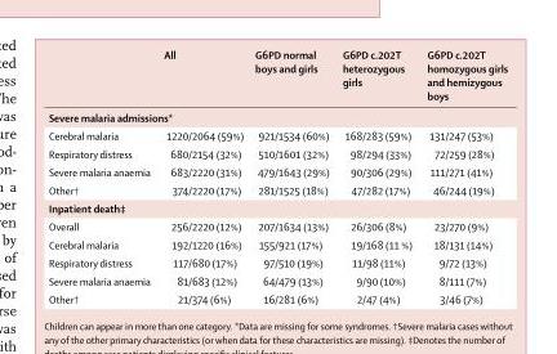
<table><thead><tr><td></td><td>All</td><td>G6PD normal boys and girls</td><td>G6PD c.202T heterozygous girls</td><td>G6PD c.202T homozygous girls and hemizygous boys</td></tr></thead><tbody><tr><td colspan="5">Severe malaria admissions*</td></tr><tr><td>Cerebral malaria</td><td>1220/2064 (59%)</td><td>921/1534 (60%)</td><td>168/283 (59%)</td><td>131/247 (53%)</td></tr><tr><td>Respiratory distress</td><td>680/2154 (32%)</td><td>510/1601 (32%)</td><td>98/294 (33%)</td><td>72/259 (28%)</td></tr><tr><td>Severe malaria anaemia</td><td>683/2220 (31%)</td><td>479/1643 (29%)</td><td>90/306 (29%)</td><td>111/271 (41%)</td></tr><tr><td>Other†</td><td>374/2220 (17%)</td><td>281/1525 (18%)</td><td>47/282 (17%)</td><td>46/244 (19%)</td></tr><tr><td colspan="5">Inpatient death‡</td></tr><tr><td>Overall</td><td>256/2220 (12%)</td><td>207/1634 (13%)</td><td>26/306 (8%)</td><td>23/270 (9%)</td></tr><tr><td>Cerebral malaria</td><td>192/1220 (16%)</td><td>155/921 (17%)</td><td>19/168 (11 %)</td><td>18/131 (14%)</td></tr><tr><td>Respiratory distress</td><td>117/680 (17%)</td><td>97/510 (19%)</td><td>11/98 (11%)</td><td>9/72 (13%)</td></tr><tr><td>Severe malaria anaemia</td><td>81/683 (12%)</td><td>64/479 (13%)</td><td>9/90 (10%)</td><td>8/111 (7%)</td></tr><tr><td>Other†</td><td>21/374 (6%)</td><td>16/281 (6%)</td><td>2/47 (4%)</td><td>3/46 (7%)</td></tr></tbody></table>